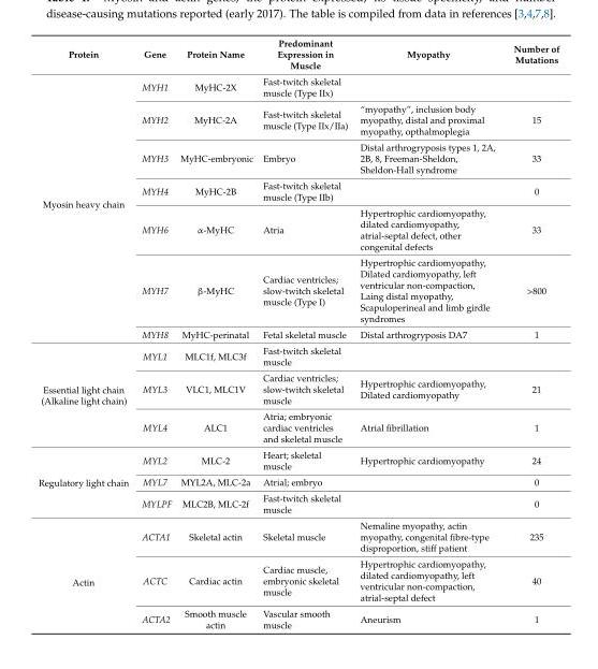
<table><thead><tr><td>Protein</td><td>Gene</td><td>Protein Name</td><td>Predominant Expression in Muscle</td><td>Myopathy</td><td>Number of Mutations</td></tr></thead><tbody><tr><td rowspan="7">Myosin heavy chain</td><td>MYH1</td><td>MyHC-2X</td><td>Fast-twitch skeletal muscle (Type IIx)</td><td></td><td></td></tr><tr><td>MYH2</td><td>MyHC-2A</td><td>Fast-twitch skeletal muscle (Type IIx/IIa)</td><td>“myopathy”, inclusion body myopathy, distal and proximal myopathy, opthalmoplegia</td><td>15</td></tr><tr><td>MYH3</td><td>MyHC-embryonic</td><td>Embryo</td><td>Distal arthrogryposis types 1, 2A, 2B, 8, Freeman-Sheldon, Sheldon-Hall syndrome</td><td>33</td></tr><tr><td>MYH4</td><td>MyHC-2B</td><td>Fast-twitch skeletal muscle (Type IIb)</td><td></td><td>0</td></tr><tr><td>MYH6</td><td>α-MyHC</td><td>Atria</td><td>Hypertrophic cardiomyopathy, dilated cardiomyopathy, atrial-septal defect, other congenital defects</td><td>33</td></tr><tr><td>MYH7</td><td>β-MyHC</td><td>Cardiac ventricles; slow-twitch skeletal muscle (Type I)</td><td>Hypertrophic cardiomyopathy, Dilated cardiomyopathy, left ventricular non-compaction, Laing distal myopathy, Scapuloperineal and limb girdle syndromes</td><td>&gt;800</td></tr><tr><td>MYH8</td><td>MyHC-perinatal</td><td>Fetal skeletal muscle</td><td>Distal arthrogryposis DA7</td><td>1</td></tr><tr><td rowspan="3">Essential light chain (Alkaline light chain)</td><td>MYL1</td><td>MLC1f, MLC3f</td><td>Fast-twitch skeletal muscle</td><td></td><td></td></tr><tr><td>MYL3</td><td>VLC1, MLC1V</td><td>Cardiac ventricles; slow-twitch skeletal muscle</td><td>Hypertrophic cardiomyopathy, Dilated cardiomyopathy</td><td>21</td></tr><tr><td>MYL4</td><td>ALC1</td><td>Atria; embryonic cardiac ventricles and skeletal muscle</td><td>Atrial fibrillation</td><td>1</td></tr><tr><td rowspan="3">Regulatory light chain</td><td>MYL2</td><td>MLC-2</td><td>Heart; skeletal muscle</td><td>Hypertrophic cardiomyopathy</td><td>24</td></tr><tr><td>MYL7</td><td>MYL2A, MLC-2a</td><td>Atrial; embryo</td><td></td><td>0</td></tr><tr><td>MYLPF</td><td>MLC2B, MLC-2f</td><td>Fast-twitch skeletal muscle</td><td></td><td>0</td></tr><tr><td rowspan="3">Actin</td><td>ACTA1</td><td>Skeletal actin</td><td>Skeletal muscle</td><td>Nemaline myopathy, actin myopathy, congenital fibre-type disproportion, stiff patient</td><td>235</td></tr><tr><td>ACTC</td><td>Cardiac actin</td><td>Cardiac muscle, embryonic skeletal muscle</td><td>Hypertrophic cardiomyopathy, dilated cardiomyopathy, left ventricular non-compaction, atrial-septal defect</td><td>40</td></tr><tr><td>ACTA2</td><td>Smooth muscle actin</td><td>Vascular smooth muscle</td><td>Aneurism</td><td>1</td></tr></tbody></table>